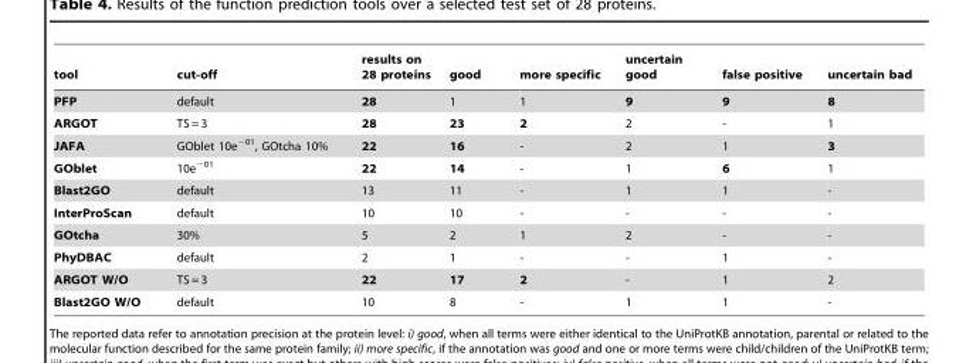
<table><thead><tr><td>tool</td><td>cut-off</td><td>results on 28 proteins</td><td>good</td><td>more specific</td><td>uncertain good</td><td>false positive</td><td>uncertain bad</td></tr></thead><tbody><tr><td>PFP</td><td>default</td><td>28</td><td>1</td><td>1</td><td>9</td><td>9</td><td>8</td></tr><tr><td>ARGOT</td><td>TS = 3</td><td>28</td><td>23</td><td>2</td><td>2</td><td>-</td><td>1</td></tr><tr><td>JAFA</td><td>GOblet 10e<sup>−01</sup>, GOtcha 10%</td><td>22</td><td>16</td><td>-</td><td>2</td><td>1</td><td>3</td></tr><tr><td>GOblet</td><td>10e<sup>−01</sup></td><td>22</td><td>14</td><td>-</td><td>1</td><td>6</td><td>1</td></tr><tr><td>Blast2GO</td><td>default</td><td>13</td><td>11</td><td>-</td><td>1</td><td>1</td><td>-</td></tr><tr><td>InterProScan</td><td>default</td><td>10</td><td>10</td><td>-</td><td>-</td><td>-</td><td>-</td></tr><tr><td>GOtcha</td><td>30%</td><td>5</td><td>2</td><td>1</td><td>2</td><td>-</td><td>-</td></tr><tr><td>PhyDBAC</td><td>default</td><td>2</td><td>1</td><td>-</td><td>-</td><td>1</td><td>-</td></tr><tr><td>ARGOT W/O</td><td>TS = 3</td><td>22</td><td>17</td><td>2</td><td>-</td><td>1</td><td>2</td></tr><tr><td>Blast2GO W/O</td><td>default</td><td>10</td><td>8</td><td>-</td><td>1</td><td>1</td><td>-</td></tr></tbody></table>